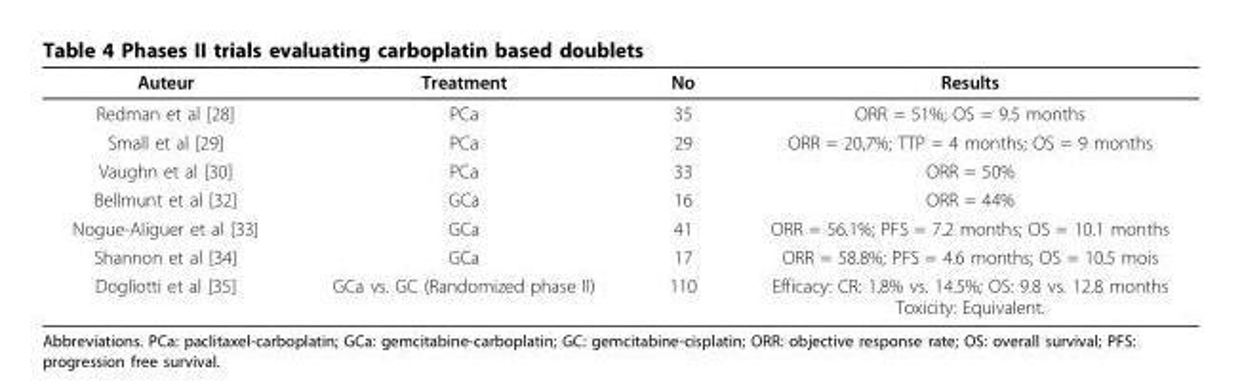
<table><thead><tr><td>Auteur</td><td>Treatment</td><td>No</td><td>Results</td></tr></thead><tbody><tr><td>Redman et al [28]</td><td>PCa</td><td>35</td><td>ORR = 51%; OS = 9.5 months</td></tr><tr><td>Small et al [29]</td><td>PCa</td><td>29</td><td>ORR = 20,7%; TTP = 4 months; OS = 9 months</td></tr><tr><td>Vaughn et al [30]</td><td>PCa</td><td>33</td><td>ORR = 50%</td></tr><tr><td>Bellmunt et al [32]</td><td>GCa</td><td>16</td><td>ORR = 44%</td></tr><tr><td>Nogue-Aliguer et al [33]</td><td>GCa</td><td>41</td><td>ORR = 56.1%; PFS = 7.2 months; OS = 10.1 months</td></tr><tr><td>Shannon et al [34]</td><td>GCa</td><td>17</td><td>ORR = 58.8%; PFS = 4.6 months; OS = 10.5 mois</td></tr><tr><td>Dogliotti et al [35]</td><td>GCa vs. GC (Randomized phase II)</td><td>110</td><td>Efficacy: CR: 1.8% vs. 14.5%; OS: 9.8 vs. 12.8 months Toxicity: Equivalent.</td></tr></tbody></table>